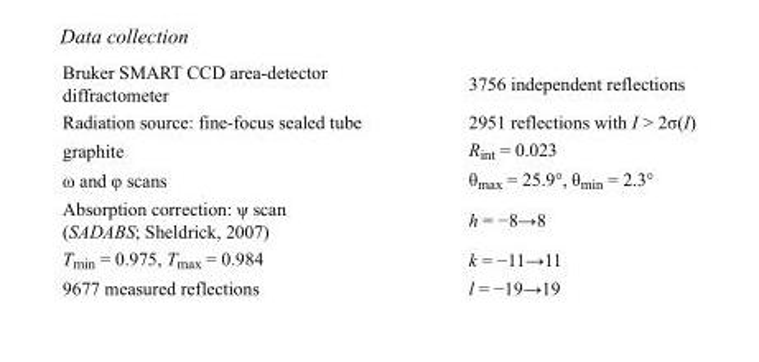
<table><tbody><tr><td>Bruker SMART CCD area-detector diffractometer</td><td>3756 independent reflections</td></tr><tr><td>Radiation source: fine-focus sealed tube</td><td>2951 reflections with I &gt; 2σ(I)</td></tr><tr><td>graphite</td><td>R<sub>int</sub> = 0.023</td></tr><tr><td>ω and φ scans</td><td>θ<sub>max</sub> = 25.9°, θ<sub>min</sub> = 2.3°</td></tr><tr><td>Absorption correction: ψ scan (SADABS; Sheldrick, 2007)</td><td>h = −8→8</td></tr><tr><td>T<sub>min</sub> = 0.975, T<sub>max</sub> = 0.984</td><td>k = −11→11</td></tr><tr><td>9677 measured reflections</td><td>l = −19→19</td></tr></tbody></table>